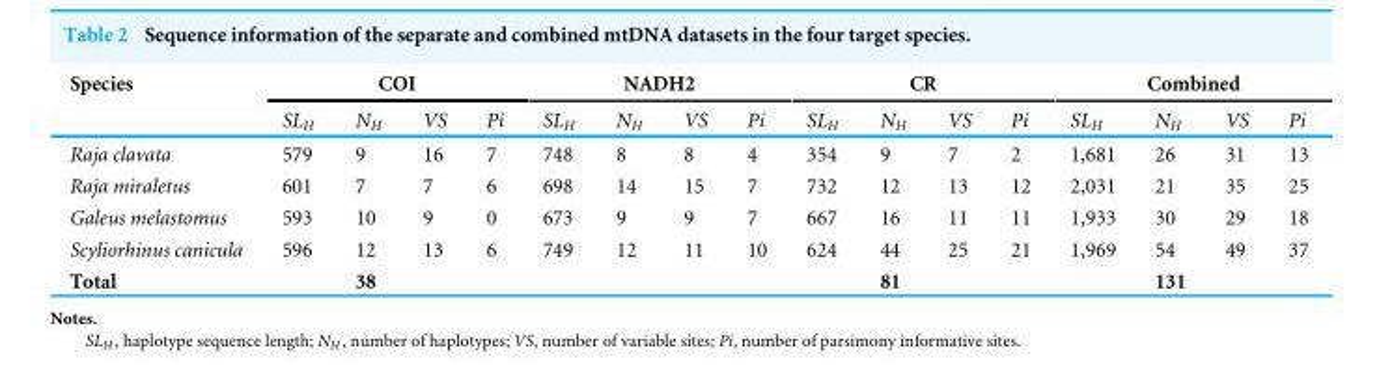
<table><thead><tr><td rowspan="2">Species</td><td colspan="4">COI</td><td colspan="4">NADH2</td><td colspan="4">CR</td><td colspan="4">Combined</td></tr><tr><td>SL<sub>H</sub></td><td>N<sub>H</sub></td><td>VS</td><td>Pi</td><td>SL<sub>H</sub></td><td>N<sub>H</sub></td><td>VS</td><td>Pi</td><td>SL<sub>H</sub></td><td>N<sub>H</sub></td><td>VS</td><td>Pi</td><td>SL<sub>H</sub></td><td>N<sub>H</sub></td><td>VS</td><td>Pi</td></tr></thead><tbody><tr><td>Raja clavata</td><td>579</td><td>9</td><td>16</td><td>7</td><td>748</td><td>8</td><td>8</td><td>4</td><td>354</td><td>9</td><td>7</td><td>2</td><td>1,681</td><td>26</td><td>31</td><td>13</td></tr><tr><td>Raja miraletus</td><td>601</td><td>7</td><td>7</td><td>6</td><td>698</td><td>14</td><td>15</td><td>7</td><td>732</td><td>12</td><td>13</td><td>12</td><td>2,031</td><td>21</td><td>35</td><td>25</td></tr><tr><td>Galeus melastomus</td><td>593</td><td>10</td><td>9</td><td>0</td><td>673</td><td>9</td><td>9</td><td>7</td><td>667</td><td>16</td><td>11</td><td>11</td><td>1,933</td><td>30</td><td>29</td><td>18</td></tr><tr><td>Scyliorhinus canicula</td><td>596</td><td>12</td><td>13</td><td>6</td><td>749</td><td>12</td><td>11</td><td>10</td><td>624</td><td>44</td><td>25</td><td>21</td><td>1,969</td><td>54</td><td>49</td><td>37</td></tr><tr><td>Total</td><td></td><td>38</td><td></td><td></td><td></td><td></td><td></td><td></td><td></td><td>81</td><td></td><td></td><td></td><td>131</td><td></td><td></td></tr></tbody></table>